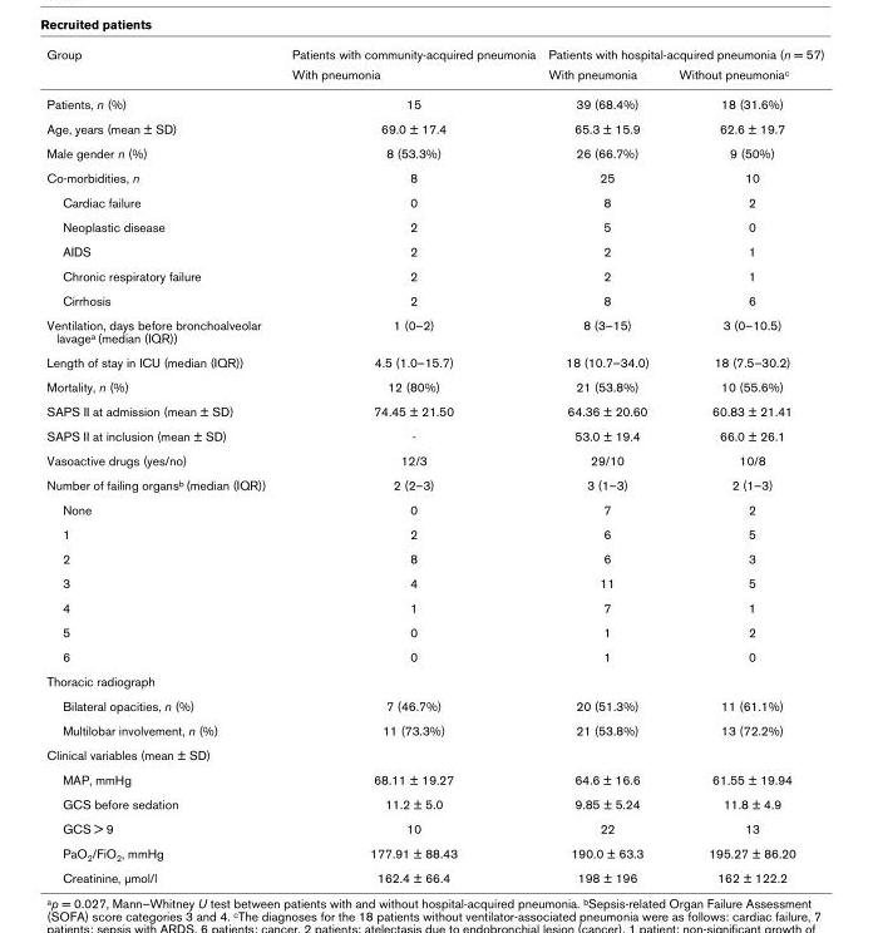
<table><thead><tr><td rowspan="2">Group</td><td rowspan="2">Patients with community-acquired pneumonia With pneumonia</td><td colspan="2">Patients with hospital-acquired pneumonia (n = 57)</td></tr><tr><td>With pneumonia</td><td>Without pneumoniac</td></tr></thead><tbody><tr><td>Patients, n (%)</td><td>15</td><td>39 (68.4%)</td><td>18 (31.6%)</td></tr><tr><td>Age, years (mean ± SD)</td><td>69.0 ± 17.4</td><td>65.3 ± 15.9</td><td>62.6 ± 19.7</td></tr><tr><td>Male gender n (%)</td><td>8 (53.3%)</td><td>26 (66.7%)</td><td>9 (50%)</td></tr><tr><td>Co-morbidities, n</td><td>8</td><td>25</td><td>10</td></tr><tr><td>Cardiac failure</td><td>0</td><td>8</td><td>2</td></tr><tr><td>Neoplastic disease</td><td>2</td><td>5</td><td>0</td></tr><tr><td>AIDS</td><td>2</td><td>2</td><td>1</td></tr><tr><td>Chronic respiratory failure</td><td>2</td><td>2</td><td>1</td></tr><tr><td>Cirrhosis</td><td>2</td><td>8</td><td>6</td></tr><tr><td>Ventilation, days before bronchoalveolar lavagea (median (IQR))</td><td>1 (0–2)</td><td>8 (3–15)</td><td>3 (0–10.5)</td></tr><tr><td>Length of stay in ICU (median (IQR))</td><td>4.5 (1.0–15.7)</td><td>18 (10.7–34.0)</td><td>18 (7.5–30.2)</td></tr><tr><td>Mortality, n (%)</td><td>12 (80%)</td><td>21 (53.8%)</td><td>10 (55.6%)</td></tr><tr><td>SAPS II at admission (mean ± SD)</td><td>74.45 ± 21.50</td><td>64.36 ± 20.60</td><td>60.83 ± 21.41</td></tr><tr><td>SAPS II at inclusion (mean ± SD)</td><td>-</td><td>53.0 ± 19.4</td><td>66.0 ± 26.1</td></tr><tr><td>Vasoactive drugs (yes/no)</td><td>12/3</td><td>29/10</td><td>10/8</td></tr><tr><td>Number of failing organsb (median (IQR))</td><td>2 (2–3)</td><td>3 (1–3)</td><td>2 (1–3)</td></tr><tr><td>None</td><td>0</td><td>7</td><td>2</td></tr><tr><td>1</td><td>2</td><td>6</td><td>5</td></tr><tr><td>2</td><td>8</td><td>6</td><td>3</td></tr><tr><td>3</td><td>4</td><td>11</td><td>5</td></tr><tr><td>4</td><td>1</td><td>7</td><td>1</td></tr><tr><td>5</td><td>0</td><td>1</td><td>2</td></tr><tr><td>6</td><td>0</td><td>1</td><td>0</td></tr><tr><td colspan="4">Thoracic radiograph</td></tr><tr><td>Bilateral opacities, n (%)</td><td>7 (46.7%)</td><td>20 (51.3%)</td><td>11 (61.1%)</td></tr><tr><td>Multilobar involvement, n (%)</td><td>11 (73.3%)</td><td>21 (53.8%)</td><td>13 (72.2%)</td></tr><tr><td colspan="4">Clinical variables (mean ± SD)</td></tr><tr><td>MAP, mmHg</td><td>68.11 ± 19.27</td><td>64.6 ± 16.6</td><td>61.55 ± 19.94</td></tr><tr><td>GCS before sedation</td><td>11.2 ± 5.0</td><td>9.85 ± 5.24</td><td>11.8 ± 4.9</td></tr><tr><td>GCS &gt; 9</td><td>10</td><td>22</td><td>13</td></tr><tr><td>PaO2/FiO2, mmHg</td><td>177.91 ± 88.43</td><td>190.0 ± 63.3</td><td>195.27 ± 86.20</td></tr><tr><td>Creatinine, µmol/l</td><td>162.4 ± 66.4</td><td>198 ± 196</td><td>162 ± 122.2</td></tr></tbody></table>